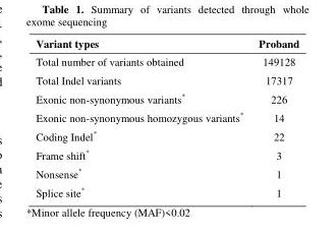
<table><thead><tr><td>Variant types</td><td>Proband</td></tr></thead><tbody><tr><td>Total number of variants obtained</td><td>149128</td></tr><tr><td>Total Indel variants</td><td>17317</td></tr><tr><td>Exonic non-synonymous variants*</td><td>226</td></tr><tr><td>Exonic non-synonymous homozygous variants*</td><td>14</td></tr><tr><td>Coding Indel*</td><td>22</td></tr><tr><td>Frame shift*</td><td>3</td></tr><tr><td>Nonsense*</td><td>1</td></tr><tr><td>Splice site*</td><td>1</td></tr></tbody></table>